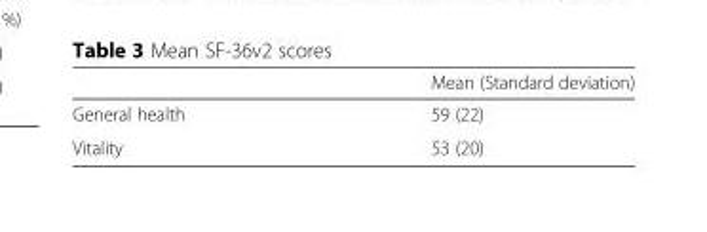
<table><thead><tr><td></td><td>Mean (Standard deviation)</td></tr></thead><tbody><tr><td>General health</td><td>59 (22)</td></tr><tr><td>Vitality</td><td>53 (20)</td></tr></tbody></table>